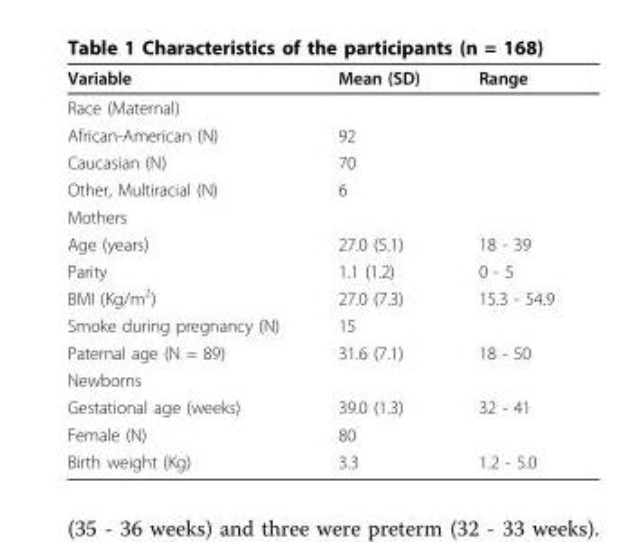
<table><thead><tr><td>Variable</td><td>Mean (SD)</td><td>Range</td></tr></thead><tbody><tr><td colspan="3">Race (Maternal)</td></tr><tr><td>African-American (N)</td><td>92</td><td></td></tr><tr><td>Caucasian (N)</td><td>70</td><td></td></tr><tr><td>Other, Multiracial (N)</td><td>6</td><td></td></tr><tr><td colspan="3">Mothers</td></tr><tr><td>Age (years)</td><td>27.0 (5.1)</td><td>18 - 39</td></tr><tr><td>Parity</td><td>1.1 (1.2)</td><td>0 - 5</td></tr><tr><td>BMI (Kg/m<sup>2</sup>)</td><td>27.0 (7.3)</td><td>15.3 - 54.9</td></tr><tr><td>Smoke during pregnancy (N)</td><td>15</td><td></td></tr><tr><td>Paternal age (N = 89)</td><td>31.6 (7.1)</td><td>18 - 50</td></tr><tr><td colspan="3">Newborns</td></tr><tr><td>Gestational age (weeks)</td><td>39.0 (1.3)</td><td>32 - 41</td></tr><tr><td>Female (N)</td><td>80</td><td></td></tr><tr><td>Birth weight (Kg)</td><td>3.3</td><td>1.2 - 5.0</td></tr></tbody></table>